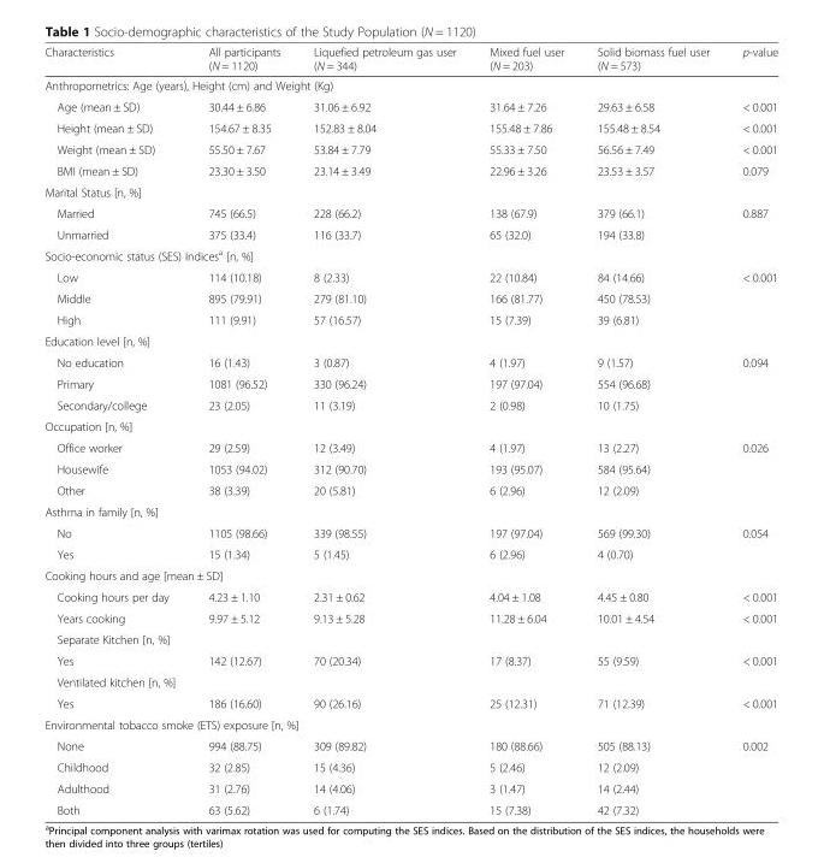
<table><thead><tr><td>Characteristics</td><td>All participants (N = 1120)</td><td>Liquefied petroleum gas user (N = 344)</td><td>Mixed fuel user (N = 203)</td><td>Solid biomass fuel user (N = 573)</td><td>p-value</td></tr></thead><tbody><tr><td colspan="6">Anthropometrics: Age (years), Height (cm) and Weight (Kg)</td></tr><tr><td>Age (mean ± SD)</td><td>30.44 ± 6.86</td><td>31.06 ± 6.92</td><td>31.64 ± 7.26</td><td>29.63 ± 6.58</td><td>&lt; 0.001</td></tr><tr><td>Height (mean ± SD)</td><td>154.67 ± 8.35</td><td>152.83 ± 8.04</td><td>155.48 ± 7.86</td><td>155.48 ± 8.54</td><td>&lt; 0.001</td></tr><tr><td>Weight (mean ± SD)</td><td>55.50 ± 7.67</td><td>53.84 ± 7.79</td><td>55.33 ± 7.50</td><td>56.56 ± 7.49</td><td>&lt; 0.001</td></tr><tr><td>BMI (mean ± SD)</td><td>23.30 ± 3.50</td><td>23.14 ± 3.49</td><td>22.96 ± 3.26</td><td>23.53 ± 3.57</td><td>0.079</td></tr><tr><td colspan="6">Marital Status [n, %]</td></tr><tr><td>Married</td><td>745 (66.5)</td><td>228 (66.2)</td><td>138 (67.9)</td><td>379 (66.1)</td><td>0.887</td></tr><tr><td>Unmarried</td><td>375 (33.4)</td><td>116 (33.7)</td><td>65 (32.0)</td><td>194 (33.8)</td><td></td></tr><tr><td colspan="6">Socio-economic status (SES) Indices<sup>a</sup> [n, %]</td></tr><tr><td>Low</td><td>114 (10.18)</td><td>8 (2.33)</td><td>22 (10.84)</td><td>84 (14.66)</td><td>&lt; 0.001</td></tr><tr><td>Middle</td><td>895 (79.91)</td><td>279 (81.10)</td><td>166 (81.77)</td><td>450 (78.53)</td><td></td></tr><tr><td>High</td><td>111 (9.91)</td><td>57 (16.57)</td><td>15 (7.39)</td><td>39 (6.81)</td><td></td></tr><tr><td colspan="6">Education level [n, %]</td></tr><tr><td>No education</td><td>16 (1.43)</td><td>3 (0.87)</td><td>4 (1.97)</td><td>9 (1.57)</td><td>0.094</td></tr><tr><td>Primary</td><td>1081 (96.52)</td><td>330 (96.24)</td><td>197 (97.04)</td><td>554 (96.68)</td><td></td></tr><tr><td>Secondary/college</td><td>23 (2.05)</td><td>11 (3.19)</td><td>2 (0.98)</td><td>10 (1.75)</td><td></td></tr><tr><td colspan="6">Occupation [n, %]</td></tr><tr><td>Office worker</td><td>29 (2.59)</td><td>12 (3.49)</td><td>4 (1.97)</td><td>13 (2.27)</td><td>0.026</td></tr><tr><td>Housewife</td><td>1053 (94.02)</td><td>312 (90.70)</td><td>193 (95.07)</td><td>584 (95.64)</td><td></td></tr><tr><td>Other</td><td>38 (3.39)</td><td>20 (5.81)</td><td>6 (2.96)</td><td>12 (2.09)</td><td></td></tr><tr><td colspan="6">Asthma in family [n, %]</td></tr><tr><td>No</td><td>1105 (98.66)</td><td>339 (98.55)</td><td>197 (97.04)</td><td>569 (99.30)</td><td>0.054</td></tr><tr><td>Yes</td><td>15 (1.34)</td><td>5 (1.45)</td><td>6 (2.96)</td><td>4 (0.70)</td><td></td></tr><tr><td colspan="6">Cooking hours and age [mean ± SD]</td></tr><tr><td>Cooking hours per day</td><td>4.23 ± 1.10</td><td>2.31 ± 0.62</td><td>4.04 ± 1.08</td><td>4.45 ± 0.80</td><td>&lt; 0.001</td></tr><tr><td>Years cooking</td><td>9.97 ± 5.12</td><td>9.13 ± 5.28</td><td>11.28 ± 6.04</td><td>10.01 ± 4.54</td><td>&lt; 0.001</td></tr><tr><td colspan="6">Separate Kitchen [n, %]</td></tr><tr><td>Yes</td><td>142 (12.67)</td><td>70 (20.34)</td><td>17 (8.37)</td><td>55 (9.59)</td><td>&lt; 0.001</td></tr><tr><td colspan="6">Ventilated kitchen [n, %]</td></tr><tr><td>Yes</td><td>186 (16.60)</td><td>90 (26.16)</td><td>25 (12.31)</td><td>71 (12.39)</td><td>&lt; 0.001</td></tr><tr><td colspan="6">Environmental tobacco smoke (ETS) exposure [n, %]</td></tr><tr><td>None</td><td>994 (88.75)</td><td>309 (89.82)</td><td>180 (88.66)</td><td>505 (88.13)</td><td>0.002</td></tr><tr><td>Childhood</td><td>32 (2.85)</td><td>15 (4.36)</td><td>5 (2.46)</td><td>12 (2.09)</td><td></td></tr><tr><td>Adulthood</td><td>31 (2.76)</td><td>14 (4.06)</td><td>3 (1.47)</td><td>14 (2.44)</td><td></td></tr><tr><td>Both</td><td>63 (5.62)</td><td>6 (1.74)</td><td>15 (7.38)</td><td>42 (7.32)</td><td></td></tr></tbody></table>